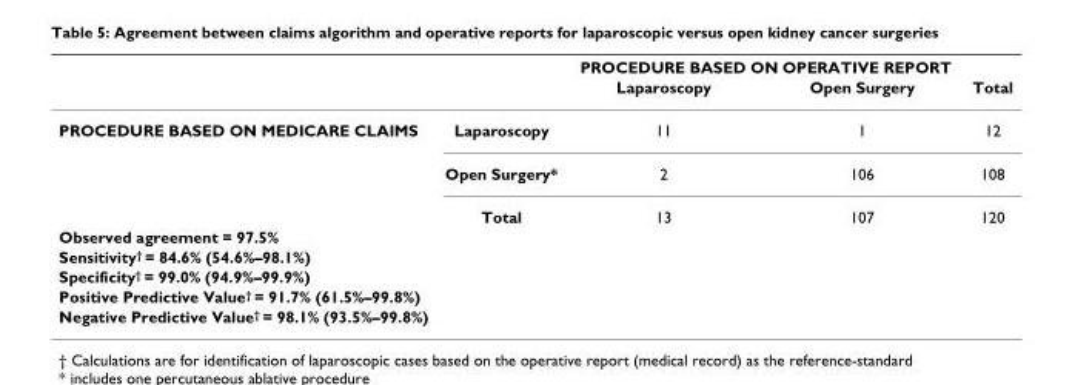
<table><thead><tr><td rowspan="2"></td><td rowspan="2"></td><td colspan="2">PROCEDURE BASED ON OPERATIVE REPORT</td><td rowspan="2">Total</td></tr><tr><td>Laparoscopy</td><td>Open Surgery</td></tr></thead><tbody><tr><td rowspan="3">PROCEDURE BASED ON MEDICARE CLAIMS</td><td>Laparoscopy</td><td>11</td><td>1</td><td>12</td></tr><tr><td>Open Surgery*</td><td>2</td><td>106</td><td>108</td></tr><tr><td>Total</td><td>13</td><td>107</td><td>120</td></tr><tr><td colspan="5">Observed agreement = 97.5%</td></tr><tr><td colspan="5">Sensitivity<sup>†</sup> = 84.6% (54.6%–98.1%)</td></tr><tr><td colspan="5">Specificity<sup>†</sup> = 99.0% (94.9%–99.9%)</td></tr><tr><td colspan="5">Positive Predictive Value<sup>†</sup> = 91.7% (61.5%–99.8%)</td></tr><tr><td colspan="5">Negative Predictive Value<sup>†</sup> = 98.1% (93.5%–99.8%)</td></tr></tbody></table>